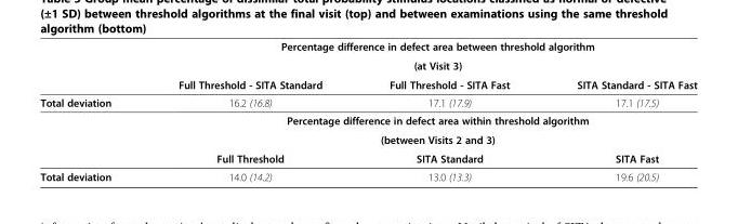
<table><thead><tr><td rowspan="3"></td><td rowspan="2" colspan="3">Percentage difference in defect area between threshold algorithm (at Visit 3)</td></tr><tr></tr><tr><td>Full Threshold - SITA Standard</td><td>Full Threshold - SITA Fast</td><td>SITA Standard - SITA Fast</td></tr></thead><tbody><tr><td rowspan="4">Total deviation</td><td>16.2 (16.8)</td><td>17.1 (17.9)</td><td>17.1 (17.5)</td></tr><tr><td colspan="3">Percentage difference in defect area within threshold algorithm</td></tr><tr><td colspan="3">(between Visits 2 and 3)</td></tr><tr><td>Full Threshold</td><td>SITA Standard</td><td>SITA Fast</td></tr><tr><td>Total deviation</td><td>14.0 (14.2)</td><td>13.0 (13.3)</td><td>19.6 (20.5)</td></tr></tbody></table>